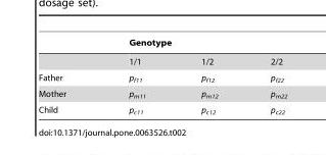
<table><thead><tr><td rowspan="2"></td><td colspan="3">Genotype</td></tr><tr><td>1/1</td><td>1/2</td><td>2/2</td></tr></thead><tbody><tr><td>Father</td><td>p<sub>f11</sub></td><td>p<sub>f12</sub></td><td>p<sub>f22</sub></td></tr><tr><td>Mother</td><td>p<sub>m11</sub></td><td>p<sub>m12</sub></td><td>p<sub>m22</sub></td></tr><tr><td>Child</td><td>p<sub>c11</sub></td><td>p<sub>c12</sub></td><td>p<sub>c22</sub></td></tr></tbody></table>